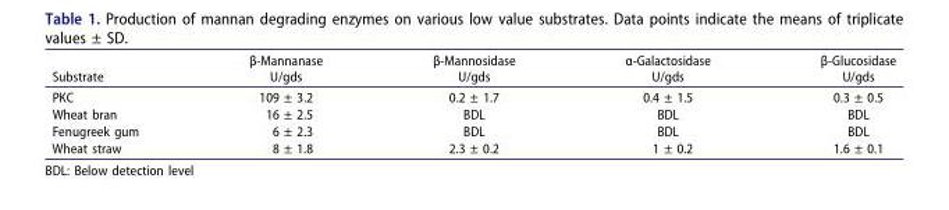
<table><thead><tr><td>Substrate</td><td>β-Mannanase U/gds</td><td>β-Mannosidase U/gds</td><td>α-Galactosidase U/gds</td><td>β-Glucosidase U/gds</td></tr></thead><tbody><tr><td>PKC</td><td>109 ± 3.2</td><td>0.2 ± 1.7</td><td>0.4 ± 1.5</td><td>0.3 ± 0.5</td></tr><tr><td>Wheat bran</td><td>16 ± 2.5</td><td>BDL</td><td>BDL</td><td>BDL</td></tr><tr><td>Fenugreek gum</td><td>6 ± 2.3</td><td>BDL</td><td>BDL</td><td>BDL</td></tr><tr><td>Wheat straw</td><td>8 ± 1.8</td><td>2.3 ± 0.2</td><td>1 ± 0.2</td><td>1.6 ± 0.1</td></tr></tbody></table>